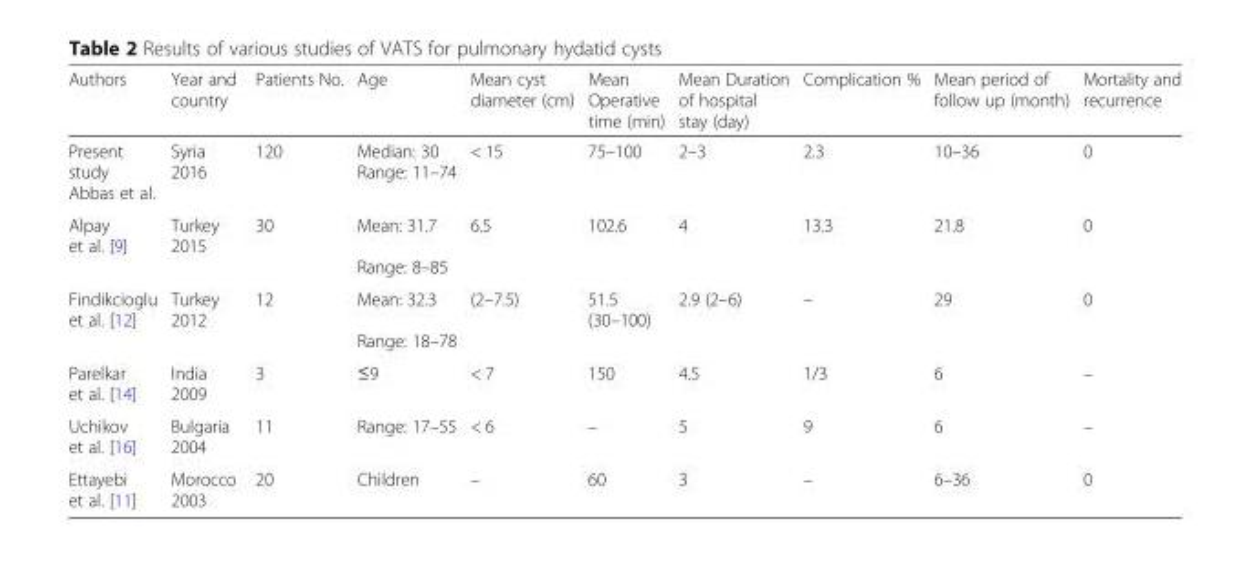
<table><thead><tr><td>Authors</td><td>Year and country</td><td>Patients No.</td><td>Age</td><td>Mean cyst diameter (cm)</td><td>Mean Operative time (min)</td><td>Mean Duration of hospital stay (day)</td><td>Complication %</td><td>Mean period of follow up (month)</td><td>Mortality and recurrence</td></tr></thead><tbody><tr><td>Present study Abbas et al.</td><td>Syria 2016</td><td>120</td><td>Median: 30 Range: 11–74</td><td>&lt; 15</td><td>75–100</td><td>2–3</td><td>2.3</td><td>10–36</td><td>0</td></tr><tr><td>Alpay et al. [9]</td><td>Turkey 2015</td><td>30</td><td>Mean: 31.7 Range: 8–85</td><td>6.5</td><td>102.6</td><td>4</td><td>13.3</td><td>21.8</td><td>0</td></tr><tr><td>Findikcioglu et al. [12]</td><td>Turkey 2012</td><td>12</td><td>Mean: 32.3 Range: 18–78</td><td>(2–7.5)</td><td>51.5 (30–100)</td><td>2.9 (2–6)</td><td>–</td><td>29</td><td>0</td></tr><tr><td>Parelkar et al. [14]</td><td>India 2009</td><td>3</td><td>≤9</td><td>&lt; 7</td><td>150</td><td>4.5</td><td>1/3</td><td>6</td><td>–</td></tr><tr><td>Uchikov et al. [16]</td><td>Bulgaria 2004</td><td>11</td><td>Range: 17–55</td><td>&lt; 6</td><td>–</td><td>5</td><td>9</td><td>6</td><td>–</td></tr><tr><td>Ettayebi et al. [11]</td><td>Morocco 2003</td><td>20</td><td>Children</td><td>–</td><td>60</td><td>3</td><td>–</td><td>6–36</td><td>0</td></tr></tbody></table>